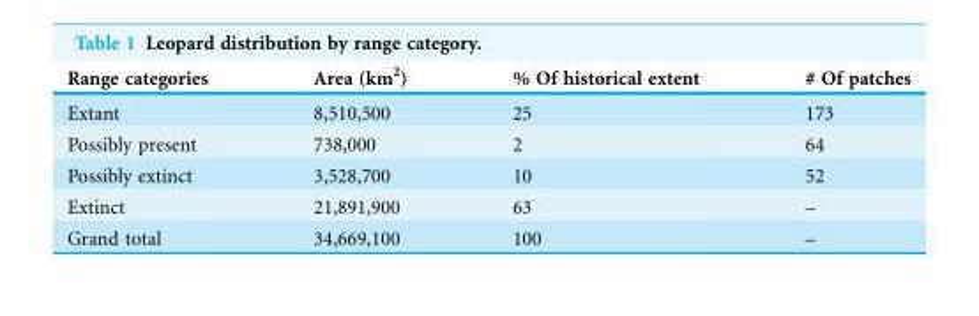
<table><thead><tr><td>Range categories</td><td>Area (km<sup>2</sup>)</td><td>% Of historical extent</td><td># Of patches</td></tr></thead><tbody><tr><td>Extant</td><td>8,510,500</td><td>25</td><td>173</td></tr><tr><td>Possibly present</td><td>738,000</td><td>2</td><td>64</td></tr><tr><td>Possibly extinct</td><td>3,528,700</td><td>10</td><td>52</td></tr><tr><td>Extinct</td><td>21,891,900</td><td>63</td><td>–</td></tr><tr><td>Grand total</td><td>34,669,100</td><td>100</td><td>–</td></tr></tbody></table>